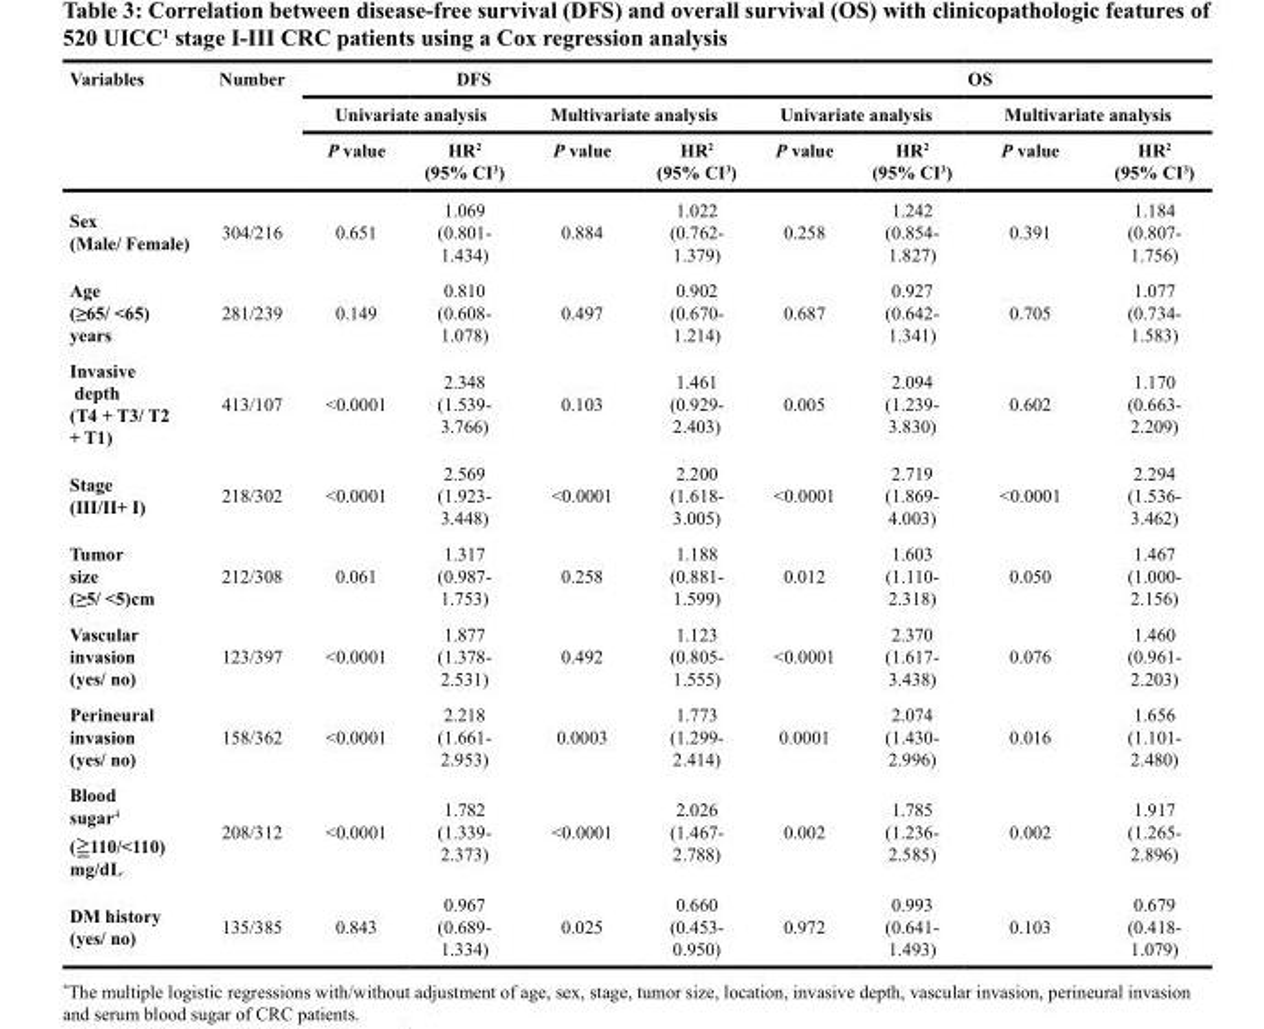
<table><thead><tr><td rowspan="3">Variables</td><td rowspan="3">Number</td><td colspan="4">DFS</td><td colspan="4">OS</td></tr><tr><td colspan="2">Univariate analysis</td><td colspan="2">Multivariate analysis</td><td colspan="2">Univariate analysis</td><td colspan="2">Multivariate analysis</td></tr><tr><td>P value</td><td>HR<sup>2</sup> (95% CI<sup>3</sup>)</td><td>P value</td><td>HR<sup>2</sup> (95% CI<sup>3</sup>)</td><td>P value</td><td>HR<sup>2</sup> (95% CI<sup>3</sup>)</td><td>P value</td><td>HR<sup>2</sup> (95% CI<sup>3</sup>)</td></tr></thead><tbody><tr><td>Sex (Male/ Female)</td><td>304/216</td><td>0.651</td><td>1.069 (0.801- 1.434)</td><td>0.884</td><td>1.022 (0.762- 1.379)</td><td>0.258</td><td>1.242 (0.854- 1.827)</td><td>0.391</td><td>1.184 (0.807- 1.756)</td></tr><tr><td>Age (≥65/ &lt;65) years</td><td>281/239</td><td>0.149</td><td>0.810 (0.608- 1.078)</td><td>0.497</td><td>0.902 (0.670- 1.214)</td><td>0.687</td><td>0.927 (0.642- 1.341)</td><td>0.705</td><td>1.077 (0.734- 1.583)</td></tr><tr><td>Invasive depth (T4 + T3/ T2 + T1)</td><td>413/107</td><td>&lt;0.0001</td><td>2.348 (1.539- 3.766)</td><td>0.103</td><td>1.461 (0.929- 2.403)</td><td>0.005</td><td>2.094 (1.239- 3.830)</td><td>0.602</td><td>1.170 (0.663- 2.209)</td></tr><tr><td>Stage (III/II+ I)</td><td>218/302</td><td>&lt;0.0001</td><td>2.569 (1.923- 3.448)</td><td>&lt;0.0001</td><td>2.200 (1.618- 3.005)</td><td>&lt;0.0001</td><td>2.719 (1.869- 4.003)</td><td>&lt;0.0001</td><td>2.294 (1.536- 3.462)</td></tr><tr><td>Tumor size (≥5/ &lt;5)cm</td><td>212/308</td><td>0.061</td><td>1.317 (0.987- 1.753)</td><td>0.258</td><td>1.188 (0.881- 1.599)</td><td>0.012</td><td>1.603 (1.110- 2.318)</td><td>0.050</td><td>1.467 (1.000- 2.156)</td></tr><tr><td>Vascular invasion (yes/ no)</td><td>123/397</td><td>&lt;0.0001</td><td>1.877 (1.378- 2.531)</td><td>0.492</td><td>1.123 (0.805- 1.555)</td><td>&lt;0.0001</td><td>2.370 (1.617- 3.438)</td><td>0.076</td><td>1.460 (0.961- 2.203)</td></tr><tr><td>Perineural invasion (yes/ no)</td><td>158/362</td><td>&lt;0.0001</td><td>2.218 (1.661- 2.953)</td><td>0.0003</td><td>1.773 (1.299- 2.414)</td><td>0.0001</td><td>2.074 (1.430- 2.996)</td><td>0.016</td><td>1.656 (1.101- 2.480)</td></tr><tr><td>Blood sugar<sup>4</sup> (≧110/&lt;110) mg/dL</td><td>208/312</td><td>&lt;0.0001</td><td>1.782 (1.339- 2.373)</td><td>&lt;0.0001</td><td>2.026 (1.467- 2.788)</td><td>0.002</td><td>1.785 (1.236- 2.585)</td><td>0.002</td><td>1.917 (1.265- 2.896)</td></tr><tr><td>DM history (yes/ no)</td><td>135/385</td><td>0.843</td><td>0.967 (0.689- 1.334)</td><td>0.025</td><td>0.660 (0.453- 0.950)</td><td>0.972</td><td>0.993 (0.641- 1.493)</td><td>0.103</td><td>0.679 (0.418- 1.079)</td></tr></tbody></table>